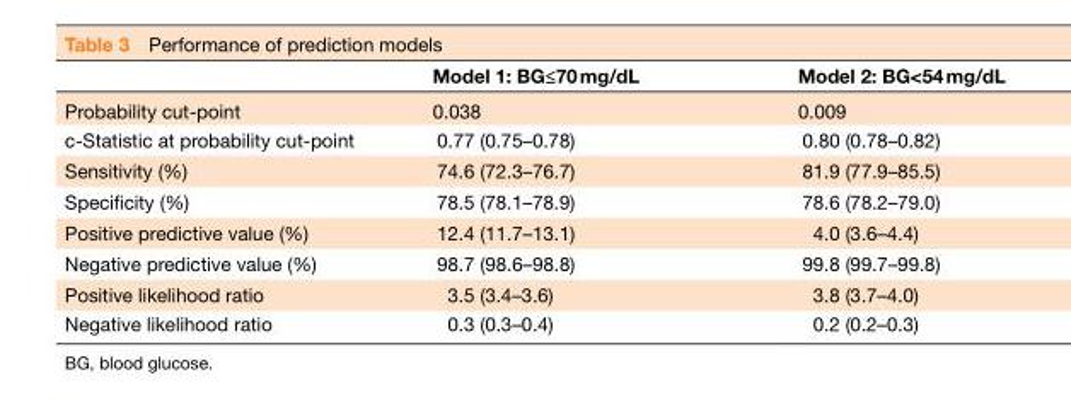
<table><thead><tr><td></td><td>Model 1: BG≤70 mg/dL</td><td>Model 2: BG&lt;54 mg/dL</td></tr></thead><tbody><tr><td>Probability cut-point</td><td>0.038</td><td>0.009</td></tr><tr><td>c-Statistic at probability cut-point</td><td>0.77 (0.75–0.78)</td><td>0.80 (0.78–0.82)</td></tr><tr><td>Sensitivity (%)</td><td>74.6 (72.3–76.7)</td><td>81.9 (77.9–85.5)</td></tr><tr><td>Specificity (%)</td><td>78.5 (78.1–78.9)</td><td>78.6 (78.2–79.0)</td></tr><tr><td>Positive predictive value (%)</td><td>12.4 (11.7–13.1)</td><td>4.0 (3.6–4.4)</td></tr><tr><td>Negative predictive value (%)</td><td>98.7 (98.6–98.8)</td><td>99.8 (99.7–99.8)</td></tr><tr><td>Positive likelihood ratio</td><td>3.5 (3.4–3.6)</td><td>3.8 (3.7–4.0)</td></tr><tr><td>Negative likelihood ratio</td><td>0.3 (0.3–0.4)</td><td>0.2 (0.2–0.3)</td></tr></tbody></table>